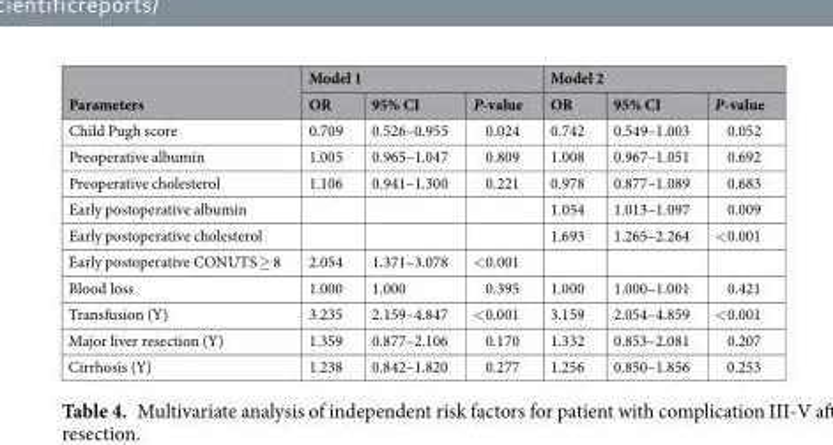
<table><thead><tr><td rowspan="2">Parameters</td><td colspan="3">Model 1</td><td colspan="3">Model 2</td></tr><tr><td>OR</td><td>95% CI</td><td>P-value</td><td>OR</td><td>95% CI</td><td>P-value</td></tr></thead><tbody><tr><td>Child Pugh score</td><td>0.709</td><td>0.526–0.955</td><td>0.024</td><td>0.742</td><td>0.549–1.003</td><td>0.052</td></tr><tr><td>Preoperative albumin</td><td>1.005</td><td>0.965–1.047</td><td>0.809</td><td>1.008</td><td>0.967–1.051</td><td>0.692</td></tr><tr><td>Preoperative cholesterol</td><td>1.106</td><td>0.941–1.300</td><td>0.221</td><td>0.978</td><td>0.877–1.089</td><td>0.683</td></tr><tr><td>Early postoperative albumin</td><td></td><td></td><td></td><td>1.054</td><td>1.013–1.097</td><td>0.009</td></tr><tr><td>Early postoperative cholesterol</td><td></td><td></td><td></td><td>1.693</td><td>1.265–2.264</td><td>&lt;0.001</td></tr><tr><td>Early postoperative CONUTS ≥ 8</td><td>2.054</td><td>1.371–3.078</td><td>&lt;0.001</td><td></td><td></td><td></td></tr><tr><td>Blood loss</td><td>1.000</td><td>1.000</td><td>0.395</td><td>1.000</td><td>1.000–1.001</td><td>0.421</td></tr><tr><td>Transfusion (Y)</td><td>3.235</td><td>2.159–4.847</td><td>&lt;0.001</td><td>3.159</td><td>2.054–4.859</td><td>&lt;0.001</td></tr><tr><td>Major liver resection (Y)</td><td>1.359</td><td>0.877–2.106</td><td>0.170</td><td>1.332</td><td>0.853–2.081</td><td>0.207</td></tr><tr><td>Cirrhosis (Y)</td><td>1.238</td><td>0.842–1.820</td><td>0.277</td><td>1.256</td><td>0.850–1.856</td><td>0.253</td></tr></tbody></table>